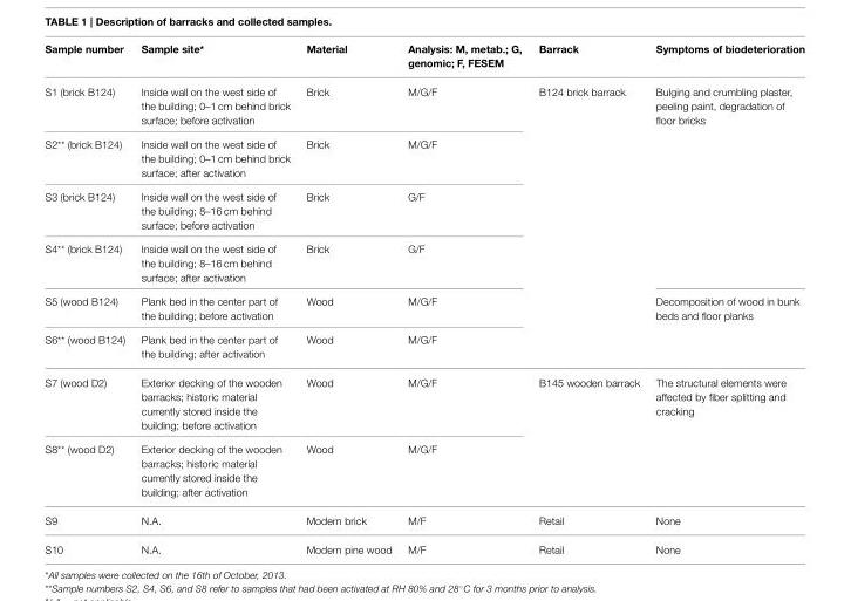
<table><thead><tr><td>Sample number</td><td>Sample site*</td><td>Material</td><td>Analysis: M, metab.; G, genomic; F, FESEM</td><td>Barrack</td><td>Symptoms of biodeterioration</td></tr></thead><tbody><tr><td>S1 (brick B124)</td><td>Inside wall on the west side of the building; 0–1 cm behind brick surface; before activation</td><td>Brick</td><td>M/G/F</td><td>B124 brick barrack</td><td>Bulging and crumbling plaster, peeling paint, degradation of floor bricks</td></tr><tr><td>S2** (brick B124)</td><td>Inside wall on the west side of the building; 0–1 cm behind brick surface; after activation</td><td>Brick</td><td>M/G/F</td><td></td><td></td></tr><tr><td>S3 (brick B124)</td><td>Inside wall on the west side of the building; 8–16 cm behind surface; before activation</td><td>Brick</td><td>G/F</td><td></td><td></td></tr><tr><td>S4** (brick B124)</td><td>Inside wall on the west side of the building; 8–16 cm behind surface; after activation</td><td>Brick</td><td>G/F</td><td></td><td></td></tr><tr><td>S5 (wood B124)</td><td>Plank bed in the center part of the building; before activation</td><td>Wood</td><td>M/G/F</td><td></td><td>Decomposition of wood in bunk beds and floor planks</td></tr><tr><td>S6** (wood B124)</td><td>Plank bed in the center part of the building; after activation</td><td>Wood</td><td>M/G/F</td><td></td><td></td></tr><tr><td>S7 (wood D2)</td><td>Exterior decking of the wooden barracks; historic material currently stored inside the building; before activation</td><td>Wood</td><td>M/G/F</td><td>B145 wooden barrack</td><td>The structural elements were affected by fiber splitting and cracking</td></tr><tr><td>S8** (wood D2)</td><td>Exterior decking of the wooden barracks; historic material currently stored inside the building; after activation</td><td>Wood</td><td>M/G/F</td><td></td><td></td></tr><tr><td>S9</td><td>N.A.</td><td>Modern brick</td><td>M/F</td><td>Retail</td><td>None</td></tr><tr><td>S10</td><td>N.A.</td><td>Modern pine wood</td><td>M/F</td><td>Retail</td><td>None</td></tr></tbody></table>